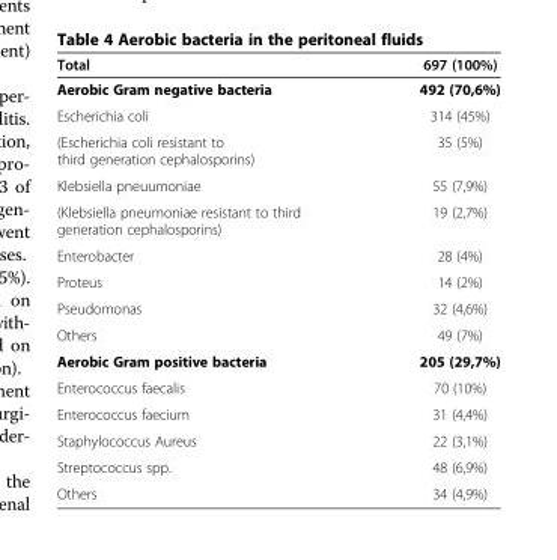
<table><thead><tr><td>Total</td><td>697 (100%)</td></tr></thead><tbody><tr><td>Aerobic Gram negative bacteria</td><td>492 (70,6%)</td></tr><tr><td>Escherichia coli</td><td>314 (45%)</td></tr><tr><td>(Escherichia coli resistant to third generation cephalosporins)</td><td>35 (5%)</td></tr><tr><td>Klebsiella pneuumoniae</td><td>55 (7,9%)</td></tr><tr><td>(Klebsiella pneumoniae resistant to third generation cephalosporins)</td><td>19 (2,7%)</td></tr><tr><td>Enterobacter</td><td>28 (4%)</td></tr><tr><td>Proteus</td><td>14 (2%)</td></tr><tr><td>Pseudomonas</td><td>32 (4,6%)</td></tr><tr><td>Others</td><td>49 (7%)</td></tr><tr><td>Aerobic Gram positive bacteria</td><td>205 (29,7%)</td></tr><tr><td>Enterococcus faecalis</td><td>70 (10%)</td></tr><tr><td>Enterococcus faecium</td><td>31 (4,4%)</td></tr><tr><td>Staphylococcus Aureus</td><td>22 (3,1%)</td></tr><tr><td>Streptococcus spp.</td><td>48 (6,9%)</td></tr><tr><td>Others</td><td>34 (4,9%)</td></tr></tbody></table>